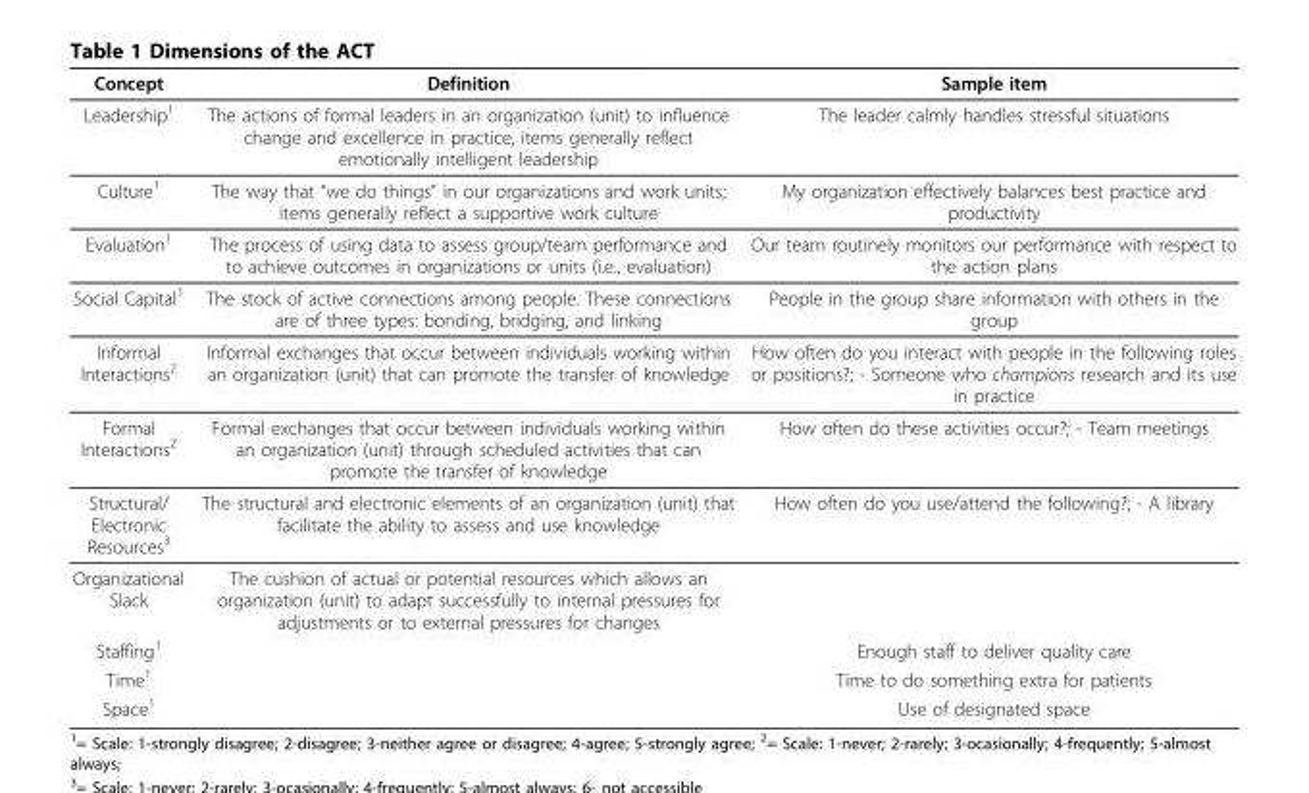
<table><thead><tr><td>Concept</td><td>Definition</td><td>Sample item</td></tr></thead><tbody><tr><td>Leadership1</td><td>The actions of formal leaders in an organization (unit) to influence change and excellence in practice, items generally reflect emotionally intelligent leadership</td><td>The leader calmly handles stressful situations</td></tr><tr><td>Culture1</td><td>The way that “we do things” in our organizations and work units; items generally reflect a supportive work culture</td><td>My organization effectively balances best practice and productivity</td></tr><tr><td>Evaluation<sup>1</sup></td><td>The process of using data to assess group/team performance and to achieve outcomes in organizations or units (i.e., evaluation)</td><td>Our team routinely monitors our performance with respect to the action plans</td></tr><tr><td>Social Capital<sup>1</sup></td><td>The stock of active connections among people. These connections are of three types: bonding, bridging, and linking</td><td>People in the group share information with others in the group</td></tr><tr><td>Informal Interactions<sup>2</sup></td><td>Informal exchanges that occur between individuals working within an organization (unit) that can promote the transfer of knowledge</td><td>How often do you interact with people in the following roles or positions?; - Someone who champions research and its use in practice</td></tr><tr><td>Formal Interactions<sup>2</sup></td><td>Formal exchanges that occur between individuals working within an organization (unit) through scheduled activities that can promote the transfer of knowledge</td><td>How often do these activities occur?; - Team meetings</td></tr><tr><td>Structural/ Electronic Resources<sup>3</sup></td><td>The structural and electronic elements of an organization (unit) that facilitate the ability to assess and use knowledge</td><td>How often do you use/attend the following?; - A library</td></tr><tr><td>Organizational Slack</td><td>The cushion of actual or potential resources which allows an organization (unit) to adapt successfully to internal pressures for adjustments or to external pressures for changes</td><td></td></tr><tr><td>Staffing<sup>1</sup></td><td></td><td>Enough staff to deliver quality care</td></tr><tr><td>Time<sup>1</sup></td><td></td><td>Time to do something extra for patients</td></tr><tr><td>Space<sup>1</sup></td><td></td><td>Use of designated space</td></tr></tbody></table>